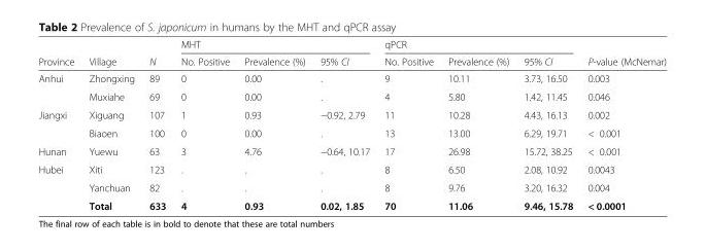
<table><thead><tr><td rowspan="2">Province</td><td rowspan="2">Village</td><td rowspan="2">N</td><td colspan="3">MHT</td><td colspan="3">qPCR</td><td rowspan="2">P-value (McNemar)</td></tr><tr><td>No. Positive</td><td>Prevalence (%)</td><td>95% CI</td><td>No. Positive</td><td>Prevalence (%)</td><td>95% CI</td></tr></thead><tbody><tr><td rowspan="2">Anhui</td><td>Zhongxing</td><td>89</td><td>0</td><td>0.00</td><td>.</td><td>9</td><td>10.11</td><td>3.73, 16.50</td><td>0.003</td></tr><tr><td>Muxiahe</td><td>69</td><td>0</td><td>0.00</td><td>.</td><td>4</td><td>5.80</td><td>1.42, 11.45</td><td>0.046</td></tr><tr><td rowspan="2">Jiangxi</td><td>Xiguang</td><td>107</td><td>1</td><td>0.93</td><td>−0.92, 2.79</td><td>11</td><td>10.28</td><td>4.43, 16.13</td><td>0.002</td></tr><tr><td>Biaoen</td><td>100</td><td>0</td><td>0.00</td><td>.</td><td>13</td><td>13.00</td><td>6.29, 19.71</td><td>&lt; 0.001</td></tr><tr><td>Hunan</td><td>Yuewu</td><td>63</td><td>3</td><td>4.76</td><td>−0.64, 10.17</td><td>17</td><td>26.98</td><td>15.72, 38.25</td><td>&lt; 0.001</td></tr><tr><td rowspan="3">Hubei</td><td>Xiti</td><td>123</td><td>.</td><td>.</td><td>.</td><td>8</td><td>6.50</td><td>2.08, 10.92</td><td>0.0043</td></tr><tr><td>Yanchuan</td><td>82</td><td>.</td><td>.</td><td>.</td><td>8</td><td>9.76</td><td>3.20, 16.32</td><td>0.004</td></tr><tr><td>Total</td><td>633</td><td>4</td><td>0.93</td><td>0.02, 1.85</td><td>70</td><td>11.06</td><td>9.46, 15.78</td><td>&lt; 0.0001</td></tr></tbody></table>